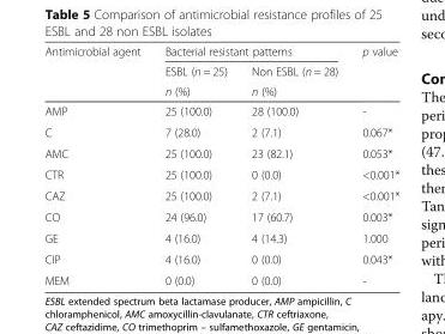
<table><thead><tr><td rowspan="3">Antimicrobial agent</td><td colspan="2">Bacterial resistant patterns</td><td rowspan="3">p value</td></tr><tr><td rowspan="2">ESBL (n = 25) n (%)</td><td rowspan="2">Non ESBL (n = 28) n (%)</td></tr><tr></tr></thead><tbody><tr><td>AMP</td><td>25 (100.0)</td><td>28 (100.0)</td><td>-</td></tr><tr><td>C</td><td>7 (28.0)</td><td>2 (7.1)</td><td>0.067*</td></tr><tr><td>AMC</td><td>25 (100.0)</td><td>23 (82.1)</td><td>0.053*</td></tr><tr><td>CTR</td><td>25 (100.0)</td><td>0 (0.0)</td><td>&lt;0.001*</td></tr><tr><td>CAZ</td><td>25 (100.0)</td><td>2 (7.1)</td><td>&lt;0.001*</td></tr><tr><td>CO</td><td>24 (96.0)</td><td>17 (60.7)</td><td>0.003*</td></tr><tr><td>GE</td><td>4 (16.0)</td><td>4 (14.3)</td><td>1.000</td></tr><tr><td>CIP</td><td>4 (16.0)</td><td>0 (0.0)</td><td>0.043*</td></tr><tr><td>MEM</td><td>0 (0.0)</td><td>0 (0.0)</td><td>-</td></tr></tbody></table>